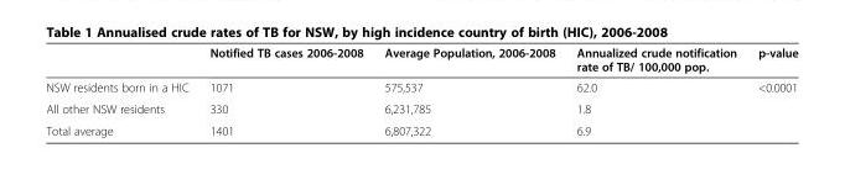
<table><thead><tr><td></td><td>Notified TB cases 2006-2008</td><td>Average Population, 2006-2008</td><td>Annualized crude notification rate of TB/ 100,000 pop.</td><td>p-value</td></tr></thead><tbody><tr><td>NSW residents born in a HIC</td><td>1071</td><td>575,537</td><td>62.0</td><td>&lt;0.0001</td></tr><tr><td>All other NSW residents</td><td>330</td><td>6,231,785</td><td>1.8</td><td></td></tr><tr><td>Total average</td><td>1401</td><td>6,807,322</td><td>6.9</td><td></td></tr></tbody></table>